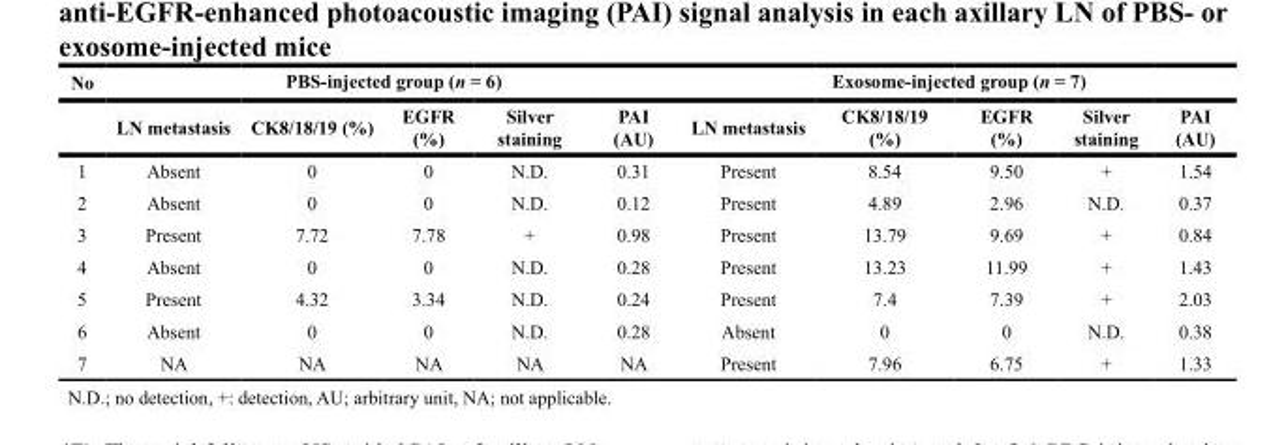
<table><thead><tr><td rowspan="2">No</td><td colspan="5">PBS-injected group (n = 6)</td><td colspan="5">Exosome-injected group (n = 7)</td></tr><tr><td>LN metastasis</td><td>CK8/18/19 (%)</td><td>EGFR (%)</td><td>Silver staining</td><td>PAI (AU)</td><td>LN metastasis</td><td>CK8/18/19 (%)</td><td>EGFR (%)</td><td>Silver staining</td><td>PAI (AU)</td></tr></thead><tbody><tr><td>1</td><td>Absent</td><td>0</td><td>0</td><td>N.D.</td><td>0.31</td><td>Present</td><td>8.54</td><td>9.50</td><td>+</td><td>1.54</td></tr><tr><td>2</td><td>Absent</td><td>0</td><td>0</td><td>N.D.</td><td>0.12</td><td>Present</td><td>4.89</td><td>2.96</td><td>N.D.</td><td>0.37</td></tr><tr><td>3</td><td>Present</td><td>7.72</td><td>7.78</td><td>+</td><td>0.98</td><td>Present</td><td>13.79</td><td>9.69</td><td>+</td><td>0.84</td></tr><tr><td>4</td><td>Absent</td><td>0</td><td>0</td><td>N.D.</td><td>0.28</td><td>Present</td><td>13.23</td><td>11.99</td><td>+</td><td>1.43</td></tr><tr><td>5</td><td>Present</td><td>4.32</td><td>3.34</td><td>N.D.</td><td>0.24</td><td>Present</td><td>7.4</td><td>7.39</td><td>+</td><td>2.03</td></tr><tr><td>6</td><td>Absent</td><td>0</td><td>0</td><td>N.D.</td><td>0.28</td><td>Absent</td><td>0</td><td>0</td><td>N.D.</td><td>0.38</td></tr><tr><td>7</td><td>NA</td><td>NA</td><td>NA</td><td>NA</td><td>NA</td><td>Present</td><td>7.96</td><td>6.75</td><td>+</td><td>1.33</td></tr></tbody></table>